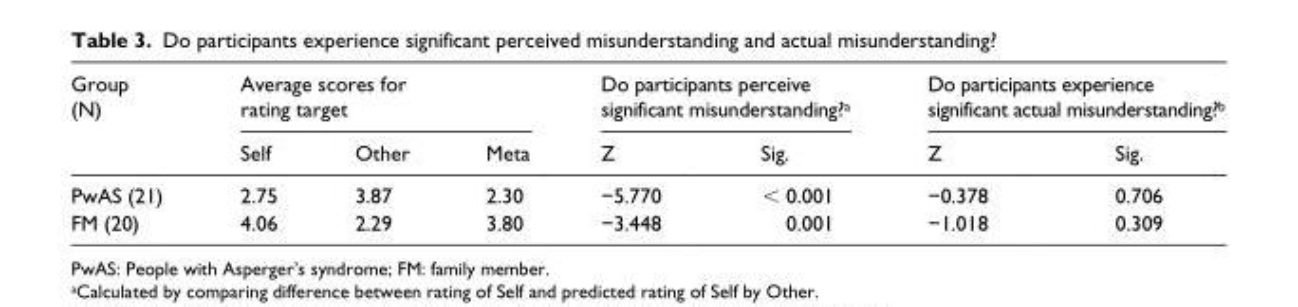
<table><thead><tr><td rowspan="2">Group (N)</td><td colspan="3">Average scores for rating target</td><td colspan="2">Do participants perceive significant misunderstanding?<sup>a</sup></td><td colspan="2">Do participants experience significant actual misunderstanding?<sup>b</sup></td></tr><tr><td>Self</td><td>Other</td><td>Meta</td><td>Z</td><td>Sig.</td><td>Z</td><td>Sig.</td></tr></thead><tbody><tr><td>PwAS (21)</td><td>2.75</td><td>3.87</td><td>2.30</td><td>−5.770</td><td>&lt; 0.001</td><td>−0.378</td><td>0.706</td></tr><tr><td>FM (20)</td><td>4.06</td><td>2.29</td><td>3.80</td><td>−3.448</td><td>0.001</td><td>−1.018</td><td>0.309</td></tr></tbody></table>